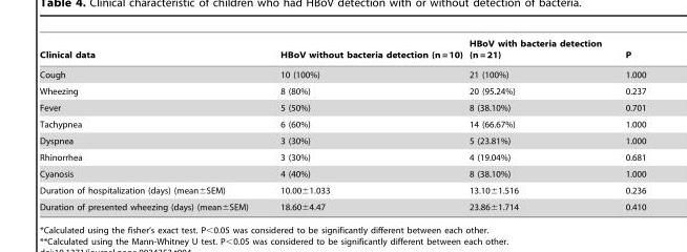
<table><thead><tr><td>Clinical data</td><td>HBoV without bacteria detection (n = 10)</td><td>HBoV with bacteria detection (n = 21)</td><td>P</td></tr></thead><tbody><tr><td>Cough</td><td>10 (100%)</td><td>21 (100%)</td><td>1.000</td></tr><tr><td>Wheezing</td><td>8 (80%)</td><td>20 (95.24%)</td><td>0.237</td></tr><tr><td>Fever</td><td>5 (50%)</td><td>8 (38.10%)</td><td>0.701</td></tr><tr><td>Tachypnea</td><td>6 (60%)</td><td>14 (66.67%)</td><td>1.000</td></tr><tr><td>Dyspnea</td><td>3 (30%)</td><td>5 (23.81%)</td><td>1.000</td></tr><tr><td>Rhinorrhea</td><td>3 (30%)</td><td>4 (19.04%)</td><td>0.681</td></tr><tr><td>Cyanosis</td><td>4 (40%)</td><td>8 (38.10%)</td><td>1.000</td></tr><tr><td>Duration of hospitalization (days) (mean±SEM)</td><td>10.00±1.033</td><td>13.10±1.516</td><td>0.236</td></tr><tr><td>Duration of presented wheezing (days) (mean±SEM)</td><td>18.60±4.47</td><td>23.86±1.714</td><td>0.410</td></tr></tbody></table>